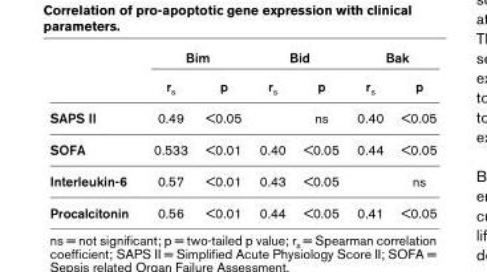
<table><thead><tr><td rowspan="2"></td><td colspan="2">Bim</td><td colspan="2">Bid</td><td colspan="2">Bak</td></tr><tr><td>r<sub>s</sub></td><td>p</td><td>r<sub>s</sub></td><td>p</td><td>r<sub>s</sub></td><td>p</td></tr></thead><tbody><tr><td>SAPS II</td><td>0.49</td><td>&lt;0.05</td><td></td><td>ns</td><td>0.40</td><td>&lt;0.05</td></tr><tr><td>SOFA</td><td>0.533</td><td>&lt;0.01</td><td>0.40</td><td>&lt;0.05</td><td>0.44</td><td>&lt;0.05</td></tr><tr><td>Interleukin-6</td><td>0.57</td><td>&lt;0.01</td><td>0.43</td><td>&lt;0.05</td><td></td><td>ns</td></tr><tr><td>Procalcitonin</td><td>0.56</td><td>&lt;0.01</td><td>0.44</td><td>&lt;0.05</td><td>0.41</td><td>&lt;0.05</td></tr></tbody></table>